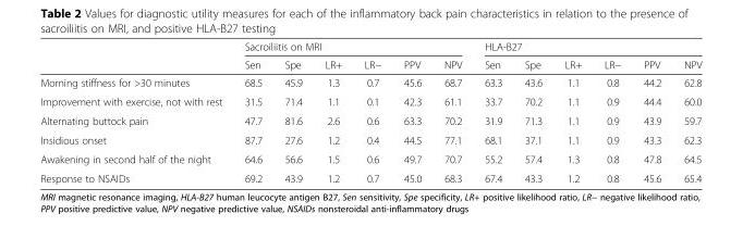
<table><thead><tr><td rowspan="2"></td><td colspan="6">Sacroiliitis on MRI</td><td colspan="6">HLA-B27</td></tr><tr><td>Sen</td><td>Spe</td><td>LR+</td><td>LR−</td><td>PPV</td><td>NPV</td><td>Sen</td><td>Spe</td><td>LR+</td><td>LR−</td><td>PPV</td><td>NPV</td></tr></thead><tbody><tr><td>Morning stiffness for &gt;30 minutes</td><td>68.5</td><td>45.9</td><td>1.3</td><td>0.7</td><td>45.6</td><td>68.7</td><td>63.3</td><td>43.6</td><td>1.1</td><td>0.8</td><td>44.2</td><td>62.8</td></tr><tr><td>Improvement with exercise, not with rest</td><td>31.5</td><td>71.4</td><td>1.1</td><td>0.1</td><td>42.3</td><td>61.1</td><td>33.7</td><td>70.2</td><td>1.1</td><td>0.9</td><td>44.4</td><td>60.0</td></tr><tr><td>Alternating buttock pain</td><td>47.7</td><td>81.6</td><td>2.6</td><td>0.6</td><td>63.3</td><td>70.2</td><td>31.9</td><td>71.3</td><td>1.1</td><td>0.9</td><td>43.9</td><td>59.7</td></tr><tr><td>Insidious onset</td><td>87.7</td><td>27.6</td><td>1.2</td><td>0.4</td><td>44.5</td><td>77.1</td><td>68.1</td><td>37.1</td><td>1.1</td><td>0.9</td><td>43.3</td><td>62.3</td></tr><tr><td>Awakening in second half of the night</td><td>64.6</td><td>56.6</td><td>1.5</td><td>0.6</td><td>49.7</td><td>70.7</td><td>55.2</td><td>57.4</td><td>1.3</td><td>0.8</td><td>47.8</td><td>64.5</td></tr><tr><td>Response to NSAIDs</td><td>69.2</td><td>43.9</td><td>1.2</td><td>0.7</td><td>45.0</td><td>68.3</td><td>67.4</td><td>43.3</td><td>1.2</td><td>0.8</td><td>45.6</td><td>65.4</td></tr></tbody></table>